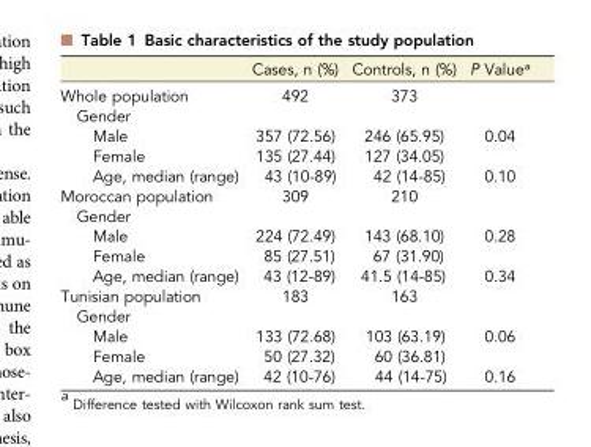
<table><thead><tr><td></td><td>Cases, n (%)</td><td>Controls, n (%)</td><td>P Value<sup>a</sup></td></tr></thead><tbody><tr><td>Whole population</td><td>492</td><td>373</td><td></td></tr><tr><td colspan="4">Gender</td></tr><tr><td>Male</td><td>357 (72.56)</td><td>246 (65.95)</td><td>0.04</td></tr><tr><td>Female</td><td>135 (27.44)</td><td>127 (34.05)</td><td></td></tr><tr><td>Age, median (range)</td><td>43 (10-89)</td><td>42 (14-85)</td><td>0.10</td></tr><tr><td>Moroccan population</td><td>309</td><td>210</td><td></td></tr><tr><td colspan="4">Gender</td></tr><tr><td>Male</td><td>224 (72.49)</td><td>143 (68.10)</td><td>0.28</td></tr><tr><td>Female</td><td>85 (27.51)</td><td>67 (31.90)</td><td></td></tr><tr><td>Age, median (range)</td><td>43 (12-89)</td><td>41.5 (14-85)</td><td>0.34</td></tr><tr><td>Tunisian population</td><td>183</td><td>163</td><td></td></tr><tr><td colspan="4">Gender</td></tr><tr><td>Male</td><td>133 (72.68)</td><td>103 (63.19)</td><td>0.06</td></tr><tr><td>Female</td><td>50 (27.32)</td><td>60 (36.81)</td><td></td></tr><tr><td>Age, median (range)</td><td>42 (10-76)</td><td>44 (14-75)</td><td>0.16</td></tr></tbody></table>